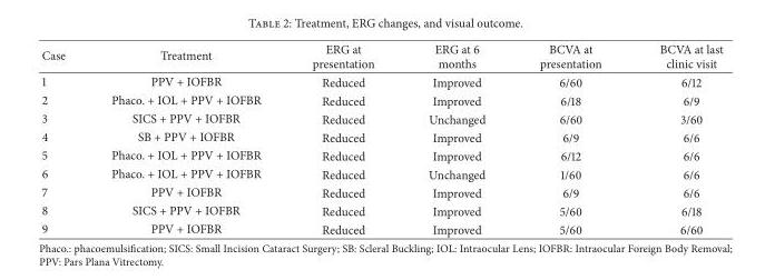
<table><thead><tr><td>Case</td><td>Treatment</td><td>ERG at presentation</td><td>ERG at 6 months</td><td>BCVA at presentation</td><td>BCVA at last clinic visit</td></tr></thead><tbody><tr><td>1</td><td>PPV + IOFBR</td><td>Reduced</td><td>Improved</td><td>6/60</td><td>6/12</td></tr><tr><td>2</td><td>Phaco. + IOL + PPV + IOFBR</td><td>Reduced</td><td>Improved</td><td>6/18</td><td>6/9</td></tr><tr><td>3</td><td>SICS + PPV + IOFBR</td><td>Reduced</td><td>Unchanged</td><td>6/60</td><td>3/60</td></tr><tr><td>4</td><td>SB + PPV + IOFBR</td><td>Reduced</td><td>Improved</td><td>6/9</td><td>6/6</td></tr><tr><td>5</td><td>Phaco. + IOL + PPV + IOFBR</td><td>Reduced</td><td>Improved</td><td>6/12</td><td>6/6</td></tr><tr><td>6</td><td>Phaco. + IOL + PPV + IOFBR</td><td>Reduced</td><td>Unchanged</td><td>1/60</td><td>6/6</td></tr><tr><td>7</td><td>PPV + IOFBR</td><td>Reduced</td><td>Improved</td><td>6/9</td><td>6/6</td></tr><tr><td>8</td><td>SICS + PPV + IOFBR</td><td>Reduced</td><td>Improved</td><td>5/60</td><td>6/18</td></tr><tr><td>9</td><td>PPV + IOFBR</td><td>Reduced</td><td>Improved</td><td>5/60</td><td>6/60</td></tr></tbody></table>